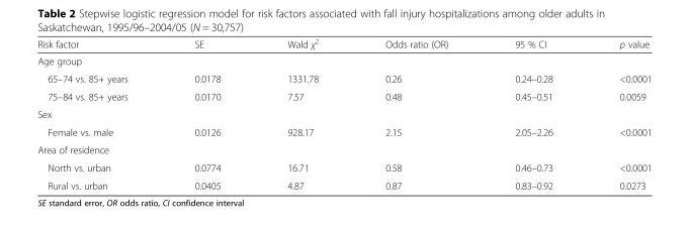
<table><thead><tr><td>Risk factor</td><td>SE</td><td>Wald χ<sup>2</sup></td><td>Odds ratio (OR)</td><td>95 % CI</td><td>p value</td></tr></thead><tbody><tr><td colspan="6">Age group</td></tr><tr><td>65–74 vs. 85+ years</td><td>0.0178</td><td>1331.78</td><td>0.26</td><td>0.24–0.28</td><td>&lt;0.0001</td></tr><tr><td>75–84 vs. 85+ years</td><td>0.0170</td><td>7.57</td><td>0.48</td><td>0.45–0.51</td><td>0.0059</td></tr><tr><td colspan="6">Sex</td></tr><tr><td>Female vs. male</td><td>0.0126</td><td>928.17</td><td>2.15</td><td>2.05–2.26</td><td>&lt;0.0001</td></tr><tr><td colspan="6">Area of residence</td></tr><tr><td>North vs. urban</td><td>0.0774</td><td>16.71</td><td>0.58</td><td>0.46–0.73</td><td>&lt;0.0001</td></tr><tr><td>Rural vs. urban</td><td>0.0405</td><td>4.87</td><td>0.87</td><td>0.83–0.92</td><td>0.0273</td></tr></tbody></table>